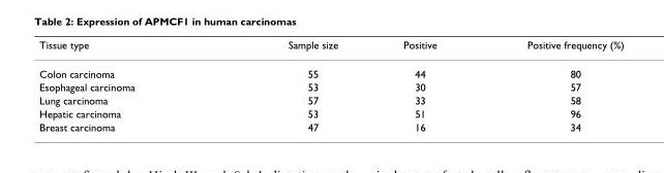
<table><thead><tr><td>Tissue type</td><td>Sample size</td><td>Positive</td><td>Positive frequency (%)</td></tr></thead><tbody><tr><td>Colon carcinoma</td><td>55</td><td>44</td><td>80</td></tr><tr><td>Esophageal carcinoma</td><td>53</td><td>30</td><td>57</td></tr><tr><td>Lung carcinoma</td><td>57</td><td>33</td><td>58</td></tr><tr><td>Hepatic carcinoma</td><td>53</td><td>51</td><td>96</td></tr><tr><td>Breast carcinoma</td><td>47</td><td>16</td><td>34</td></tr></tbody></table>